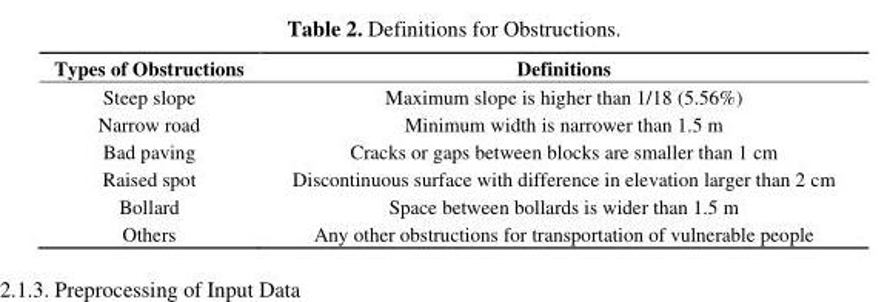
<table><thead><tr><td>Types of Obstructions</td><td>Definitions</td></tr></thead><tbody><tr><td>Steep slope</td><td>Maximum slope is higher than 1/18 (5.56%)</td></tr><tr><td>Narrow road</td><td>Minimum width is narrower than 1.5 m</td></tr><tr><td>Bad paving</td><td>Cracks or gaps between blocks are smaller than 1 cm</td></tr><tr><td>Raised spot</td><td>Discontinuous surface with difference in elevation larger than 2 cm</td></tr><tr><td>Bollard</td><td>Space between bollards is wider than 1.5 m</td></tr><tr><td>Others</td><td>Any other obstructions for transportation of vulnerable people</td></tr></tbody></table>